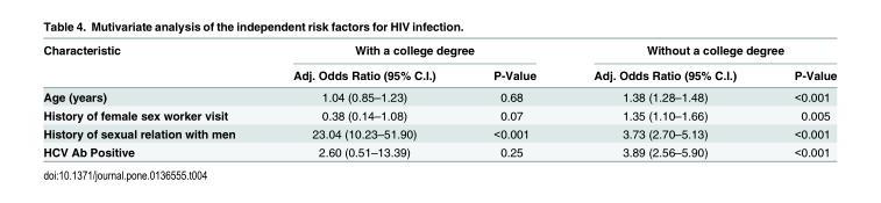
<table><thead><tr><td rowspan="2">Characteristic</td><td colspan="2">With a college degree</td><td colspan="2">Without a college degree</td></tr><tr><td>Adj. Odds Ratio (95% C.I.)</td><td>P-Value</td><td>Adj. Odds Ratio (95% C.I.)</td><td>P-Value</td></tr></thead><tbody><tr><td>Age (years)</td><td>1.04 (0.85–1.23)</td><td>0.68</td><td>1.38 (1.28–1.48)</td><td>&lt;0.001</td></tr><tr><td>History of female sex worker visit</td><td>0.38 (0.14–1.08)</td><td>0.07</td><td>1.35 (1.10–1.66)</td><td>0.005</td></tr><tr><td>History of sexual relation with men</td><td>23.04 (10.23–51.90)</td><td>&lt;0.001</td><td>3.73 (2.70–5.13)</td><td>&lt;0.001</td></tr><tr><td>HCV Ab Positive</td><td>2.60 (0.51–13.39)</td><td>0.25</td><td>3.89 (2.56–5.90)</td><td>&lt;0.001</td></tr></tbody></table>